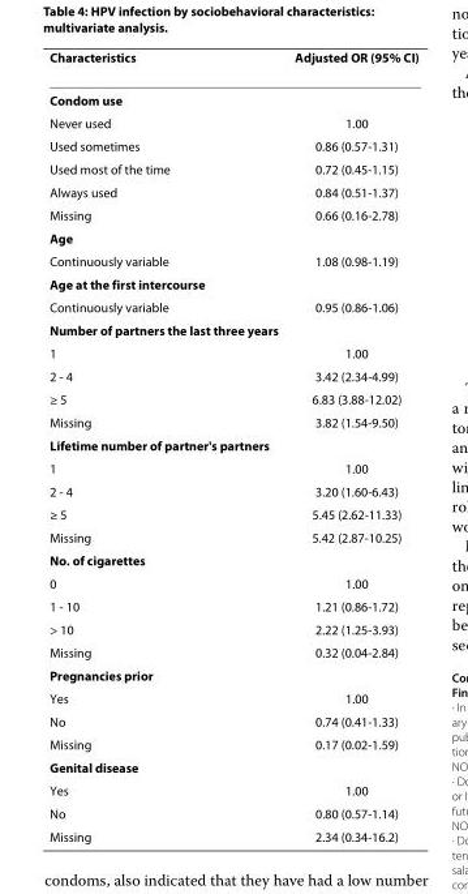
<table><thead><tr><td>Characteristics</td><td>Adjusted OR (95% CI)</td></tr></thead><tbody><tr><td colspan="2">Condom use</td></tr><tr><td>Never used</td><td>1.00</td></tr><tr><td>Used sometimes</td><td>0.86 (0.57-1.31)</td></tr><tr><td>Used most of the time</td><td>0.72 (0.45-1.15)</td></tr><tr><td>Always used</td><td>0.84 (0.51-1.37)</td></tr><tr><td>Missing</td><td>0.66 (0.16-2.78)</td></tr><tr><td colspan="2">Age</td></tr><tr><td>Continuously variable</td><td>1.08 (0.98-1.19)</td></tr><tr><td colspan="2">Age at the first intercourse</td></tr><tr><td>Continuously variable</td><td>0.95 (0.86-1.06)</td></tr><tr><td colspan="2">Number of partners the last three years</td></tr><tr><td>1</td><td>1.00</td></tr><tr><td>2 - 4</td><td>3.42 (2.34-4.99)</td></tr><tr><td>≥ 5</td><td>6.83 (3.88-12.02)</td></tr><tr><td>Missing</td><td>3.82 (1.54-9.50)</td></tr><tr><td colspan="2">Lifetime number of partner&#x27;s partners</td></tr><tr><td>1</td><td>1.00</td></tr><tr><td>2 - 4</td><td>3.20 (1.60-6.43)</td></tr><tr><td>≥ 5</td><td>5.45 (2.62-11.33)</td></tr><tr><td>Missing</td><td>5.42 (2.87-10.25)</td></tr><tr><td colspan="2">No. of cigarettes</td></tr><tr><td>0</td><td>1.00</td></tr><tr><td>1 - 10</td><td>1.21 (0.86-1.72)</td></tr><tr><td>&gt; 10</td><td>2.22 (1.25-3.93)</td></tr><tr><td>Missing</td><td>0.32 (0.04-2.84)</td></tr><tr><td colspan="2">Pregnancies prior</td></tr><tr><td>Yes</td><td>1.00</td></tr><tr><td>No</td><td>0.74 (0.41-1.33)</td></tr><tr><td>Missing</td><td>0.17 (0.02-1.59)</td></tr><tr><td colspan="2">Genital disease</td></tr><tr><td>Yes</td><td>1.00</td></tr><tr><td>No</td><td>0.80 (0.57-1.14)</td></tr><tr><td>Missing</td><td>2.34 (0.34-16.2)</td></tr></tbody></table>